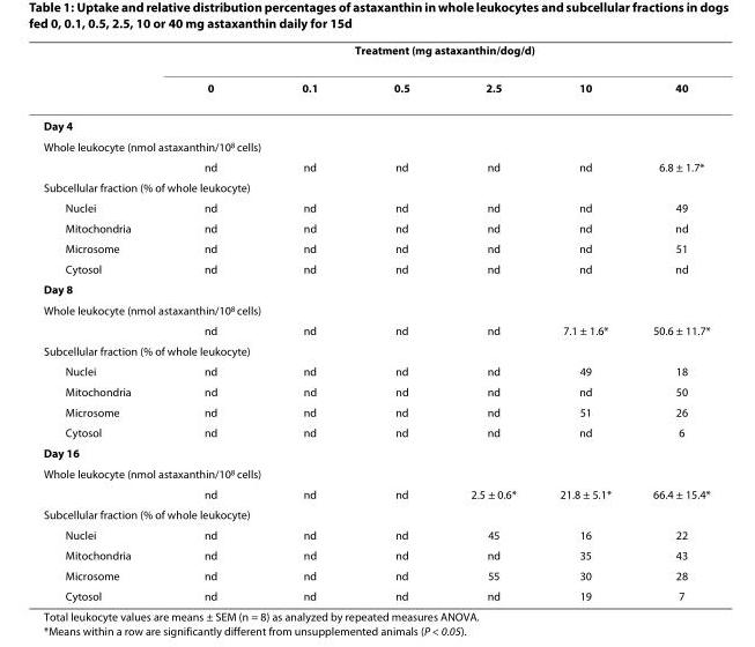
<table><thead><tr><td rowspan="2"></td><td colspan="6">Treatment (mg astaxanthin/dog/d)</td></tr><tr><td>0</td><td>0.1</td><td>0.5</td><td>2.5</td><td>10</td><td>40</td></tr></thead><tbody><tr><td colspan="7">Day 4</td></tr><tr><td colspan="7">Whole leukocyte (nmol astaxanthin/10<sup>8</sup> cells)</td></tr><tr><td></td><td>nd</td><td>nd</td><td>nd</td><td>nd</td><td>nd</td><td>6.8 ± 1.7*</td></tr><tr><td colspan="7">Subcellular fraction (% of whole leukocyte)</td></tr><tr><td>Nuclei</td><td>nd</td><td>nd</td><td>nd</td><td>nd</td><td>nd</td><td>49</td></tr><tr><td>Mitochondria</td><td>nd</td><td>nd</td><td>nd</td><td>nd</td><td>nd</td><td>nd</td></tr><tr><td>Microsome</td><td>nd</td><td>nd</td><td>nd</td><td>nd</td><td>nd</td><td>51</td></tr><tr><td>Cytosol</td><td>nd</td><td>nd</td><td>nd</td><td>nd</td><td>nd</td><td>nd</td></tr><tr><td colspan="7">Day 8</td></tr><tr><td colspan="7">Whole leukocyte (nmol astaxanthin/10<sup>8</sup> cells)</td></tr><tr><td></td><td>nd</td><td>nd</td><td>nd</td><td>nd</td><td>7.1 ± 1.6*</td><td>50.6 ± 11.7*</td></tr><tr><td colspan="7">Subcellular fraction (% of whole leukocyte)</td></tr><tr><td>Nuclei</td><td>nd</td><td>nd</td><td>nd</td><td>nd</td><td>49</td><td>18</td></tr><tr><td>Mitochondria</td><td>nd</td><td>nd</td><td>nd</td><td>nd</td><td>nd</td><td>50</td></tr><tr><td>Microsome</td><td>nd</td><td>nd</td><td>nd</td><td>nd</td><td>51</td><td>26</td></tr><tr><td>Cytosol</td><td>nd</td><td>nd</td><td>nd</td><td>nd</td><td>nd</td><td>6</td></tr><tr><td colspan="7">Day 16</td></tr><tr><td colspan="7">Whole leukocyte (nmol astaxanthin/10<sup>8</sup> cells)</td></tr><tr><td></td><td>nd</td><td>nd</td><td>nd</td><td>2.5 ± 0.6*</td><td>21.8 ± 5.1*</td><td>66.4 ± 15.4*</td></tr><tr><td colspan="7">Subcellular fraction (% of whole leukocyte)</td></tr><tr><td>Nuclei</td><td>nd</td><td>nd</td><td>nd</td><td>45</td><td>16</td><td>22</td></tr><tr><td>Mitochondria</td><td>nd</td><td>nd</td><td>nd</td><td>nd</td><td>35</td><td>43</td></tr><tr><td>Microsome</td><td>nd</td><td>nd</td><td>nd</td><td>55</td><td>30</td><td>28</td></tr><tr><td>Cytosol</td><td>nd</td><td>nd</td><td>nd</td><td>nd</td><td>19</td><td>7</td></tr></tbody></table>